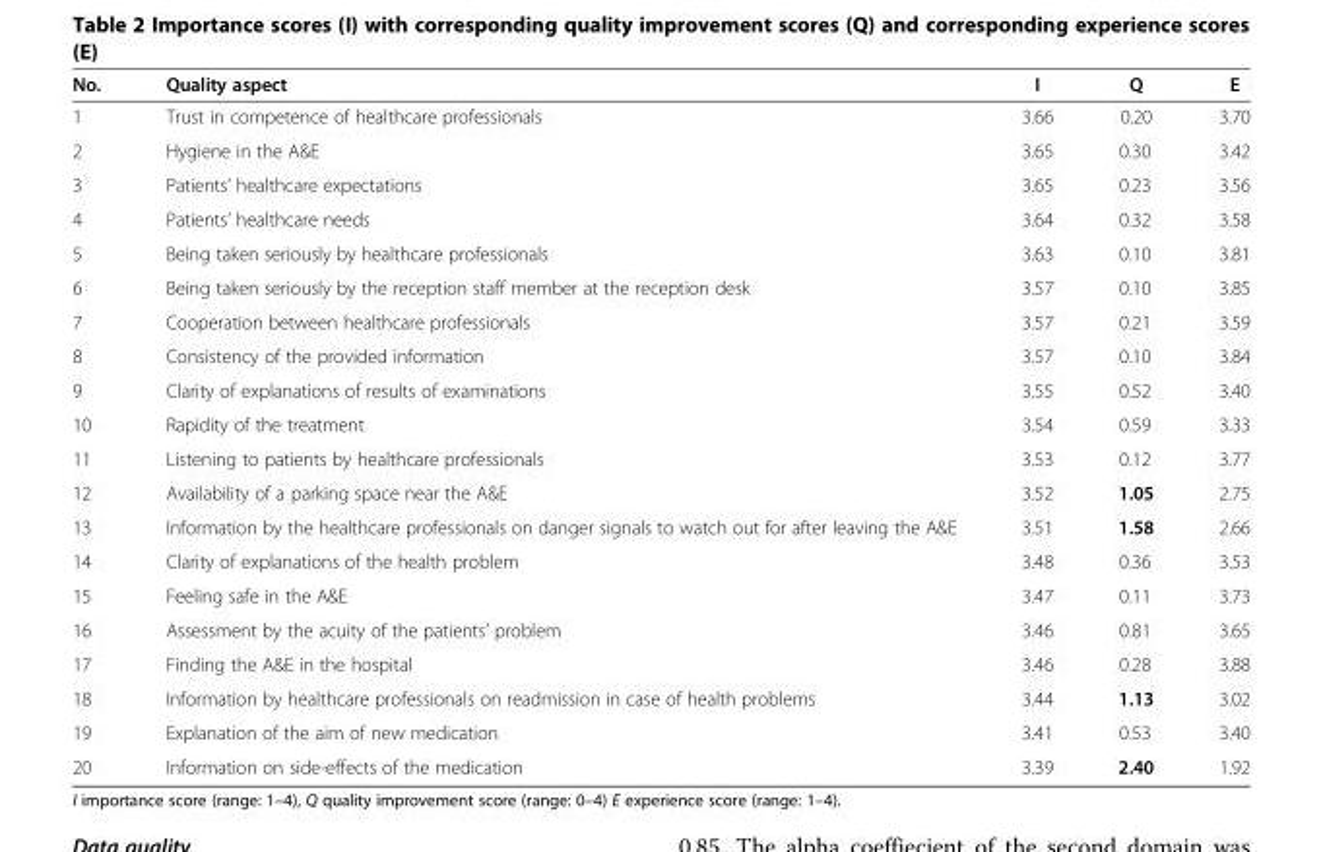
<table><thead><tr><td>No.</td><td>Quality aspect</td><td>I</td><td>Q</td><td>E</td></tr></thead><tbody><tr><td>1</td><td>Trust in competence of healthcare professionals</td><td>3.66</td><td>0.20</td><td>3.70</td></tr><tr><td>2</td><td>Hygiene in the A&amp;E</td><td>3.65</td><td>0.30</td><td>3.42</td></tr><tr><td>3</td><td>Patients’ healthcare expectations</td><td>3.65</td><td>0.23</td><td>3.56</td></tr><tr><td>4</td><td>Patients’ healthcare needs</td><td>3.64</td><td>0.32</td><td>3.58</td></tr><tr><td>5</td><td>Being taken seriously by healthcare professionals</td><td>3.63</td><td>0.10</td><td>3.81</td></tr><tr><td>6</td><td>Being taken seriously by the reception staff member at the reception desk</td><td>3.57</td><td>0.10</td><td>3.85</td></tr><tr><td>7</td><td>Cooperation between healthcare professionals</td><td>3.57</td><td>0.21</td><td>3.59</td></tr><tr><td>8</td><td>Consistency of the provided information</td><td>3.57</td><td>0.10</td><td>3.84</td></tr><tr><td>9</td><td>Clarity of explanations of results of examinations</td><td>3.55</td><td>0.52</td><td>3.40</td></tr><tr><td>10</td><td>Rapidity of the treatment</td><td>3.54</td><td>0.59</td><td>3.33</td></tr><tr><td>11</td><td>Listening to patients by healthcare professionals</td><td>3.53</td><td>0.12</td><td>3.77</td></tr><tr><td>12</td><td>Availability of a parking space near the A&amp;E</td><td>3.52</td><td>1.05</td><td>2.75</td></tr><tr><td>13</td><td>Information by the healthcare professionals on danger signals to watch out for after leaving the A&amp;E</td><td>3.51</td><td>1.58</td><td>2.66</td></tr><tr><td>14</td><td>Clarity of explanations of the health problem</td><td>3.48</td><td>0.36</td><td>3.53</td></tr><tr><td>15</td><td>Feeling safe in the A&amp;E</td><td>3.47</td><td>0.11</td><td>3.73</td></tr><tr><td>16</td><td>Assessment by the acuity of the patients’ problem</td><td>3.46</td><td>0.81</td><td>3.65</td></tr><tr><td>17</td><td>Finding the A&amp;E in the hospital</td><td>3.46</td><td>0.28</td><td>3.88</td></tr><tr><td>18</td><td>Information by healthcare professionals on readmission in case of health problems</td><td>3.44</td><td>1.13</td><td>3.02</td></tr><tr><td>19</td><td>Explanation of the aim of new medication</td><td>3.41</td><td>0.53</td><td>3.40</td></tr><tr><td>20</td><td>Information on side-effects of the medication</td><td>3.39</td><td>2.40</td><td>1.92</td></tr></tbody></table>